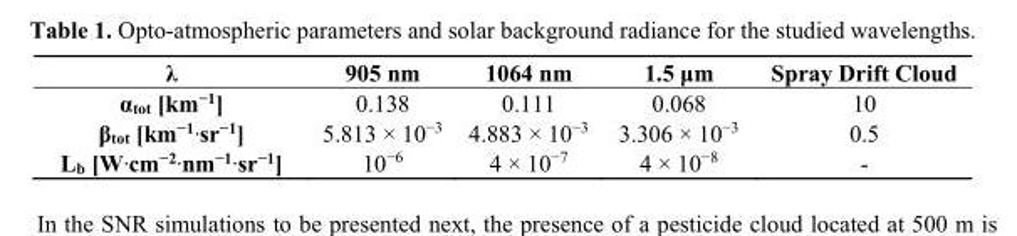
<table><thead><tr><td>λ</td><td>905 nm</td><td>1064 nm</td><td>1.5 μm</td><td>Spray Drift Cloud</td></tr></thead><tbody><tr><td>α<sub>tot</sub> [km<sup>−1</sup>]</td><td>0.138</td><td>0.111</td><td>0.068</td><td>10</td></tr><tr><td>β<sub>tot</sub> [km<sup>−1</sup>·sr<sup>−1</sup>]</td><td>5.813 × 10<sup>−3</sup></td><td>4.883 × 10<sup>−3</sup></td><td>3.306 × 10<sup>−3</sup></td><td>0.5</td></tr><tr><td>L<sub>b</sub> [W·cm<sup>−2</sup>·nm<sup>−1</sup>·sr<sup>−1</sup>]</td><td>10<sup>−6</sup></td><td>4 × 10<sup>−7</sup></td><td>4 × 10<sup>−8</sup></td><td>-</td></tr></tbody></table>